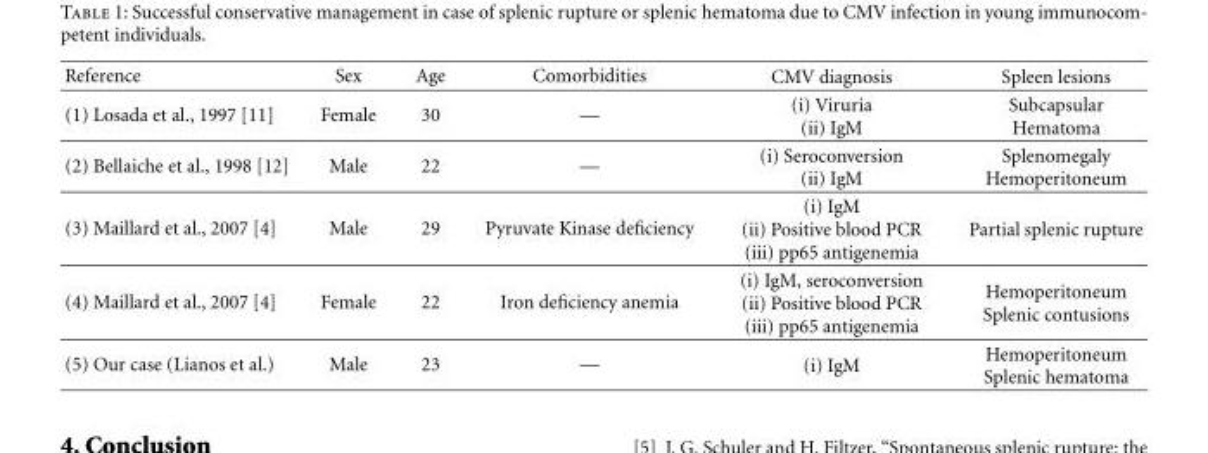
<table><thead><tr><td>Reference</td><td>Sex</td><td>Age</td><td>Comorbidities</td><td>CMV diagnosis</td><td>Spleen lesions</td></tr></thead><tbody><tr><td>(1) Losada et al., 1997 [11]</td><td>Female</td><td>30</td><td>—</td><td>(i) Viruria (ii) IgM</td><td>Subcapsular Hematoma</td></tr><tr><td>(2) Bellaiche et al., 1998 [12]</td><td>Male</td><td>22</td><td>—</td><td>(i) Seroconversion (ii) IgM</td><td>Splenomegaly Hemoperitoneum</td></tr><tr><td>(3) Maillard et al., 2007 [4]</td><td>Male</td><td>29</td><td>Pyruvate Kinase deficiency</td><td>(i) IgM (ii) Positive blood PCR (iii) pp65 antigenemia</td><td>Partial splenic rupture</td></tr><tr><td>(4) Maillard et al., 2007 [4]</td><td>Female</td><td>22</td><td>Iron deficiency anemia</td><td>(i) IgM, seroconversion (ii) Positive blood PCR (iii) pp65 antigenemia</td><td>Hemoperitoneum Splenic contusions</td></tr><tr><td>(5) Our case (Lianos et al.)</td><td>Male</td><td>23</td><td>—</td><td>(i) IgM</td><td>Hemoperitoneum Splenic hematoma</td></tr></tbody></table>